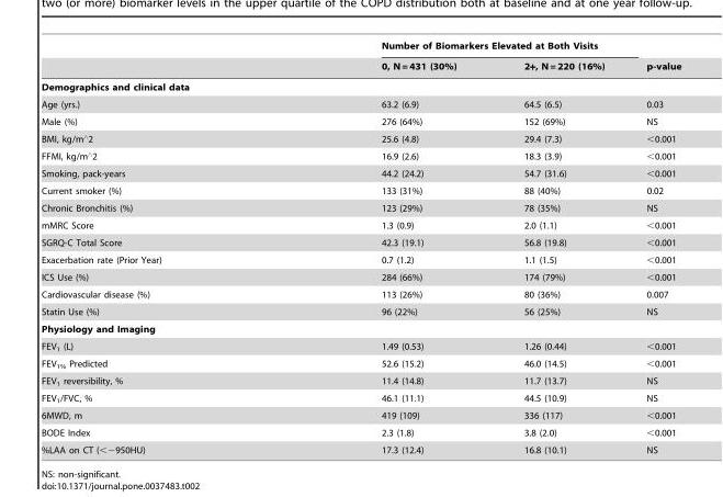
<table><thead><tr><td rowspan="2"></td><td colspan="2">Number of Biomarkers Elevated at Both Visits</td><td rowspan="2">p-value</td></tr><tr><td>0, N = 431 (30%)</td><td>2+, N = 220 (16%)</td></tr></thead><tbody><tr><td colspan="4">Demographics and clinical data</td></tr><tr><td>Age (yrs.)</td><td>63.2 (6.9)</td><td>64.5 (6.5)</td><td>0.03</td></tr><tr><td>Male (%)</td><td>276 (64%)</td><td>152 (69%)</td><td>NS</td></tr><tr><td>BMI, kg/m‘2</td><td>25.6 (4.8)</td><td>29.4 (7.3)</td><td>&lt;0.001</td></tr><tr><td>FFMI, kg/m‘2</td><td>16.9 (2.6)</td><td>18.3 (3.9)</td><td>&lt;0.001</td></tr><tr><td>Smoking, pack-years</td><td>44.2 (24.2)</td><td>54.7 (31.6)</td><td>&lt;0.001</td></tr><tr><td>Current smoker (%)</td><td>133 (31%)</td><td>88 (40%)</td><td>0.02</td></tr><tr><td>Chronic Bronchitis (%)</td><td>123 (29%)</td><td>78 (35%)</td><td>NS</td></tr><tr><td>mMRC Score</td><td>1.3 (0.9)</td><td>2.0 (1.1)</td><td>&lt;0.001</td></tr><tr><td>SGRQ-C Total Score</td><td>42.3 (19.1)</td><td>56.8 (19.8)</td><td>&lt;0.001</td></tr><tr><td>Exacerbation rate (Prior Year)</td><td>0.7 (1.2)</td><td>1.1 (1.5)</td><td>&lt;0.001</td></tr><tr><td>ICS Use (%)</td><td>284 (66%)</td><td>174 (79%)</td><td>&lt;0.001</td></tr><tr><td>Cardiovascular disease (%)</td><td>113 (26%)</td><td>80 (36%)</td><td>0.007</td></tr><tr><td>Statin Use (%)</td><td>96 (22%)</td><td>56 (25%)</td><td>NS</td></tr><tr><td colspan="4">Physiology and Imaging</td></tr><tr><td>FEV<sub>1</sub> (L)</td><td>1.49 (0.53)</td><td>1.26 (0.44)</td><td>&lt;0.001</td></tr><tr><td>FEV<sub>1%</sub> Predicted</td><td>52.6 (15.2)</td><td>46.0 (14.5)</td><td>&lt;0.001</td></tr><tr><td>FEV<sub>1</sub> reversibility, %</td><td>11.4 (14.8)</td><td>11.7 (13.7)</td><td>NS</td></tr><tr><td>FEV<sub>1</sub>/FVC, %</td><td>46.1 (11.1)</td><td>44.5 (10.9)</td><td>NS</td></tr><tr><td>6MWD, m</td><td>419 (109)</td><td>336 (117)</td><td>&lt;0.001</td></tr><tr><td>BODE Index</td><td>2.3 (1.8)</td><td>3.8 (2.0)</td><td>&lt;0.001</td></tr><tr><td>%LAA on CT (&lt;−950HU)</td><td>17.3 (12.4)</td><td>16.8 (10.1)</td><td>NS</td></tr></tbody></table>